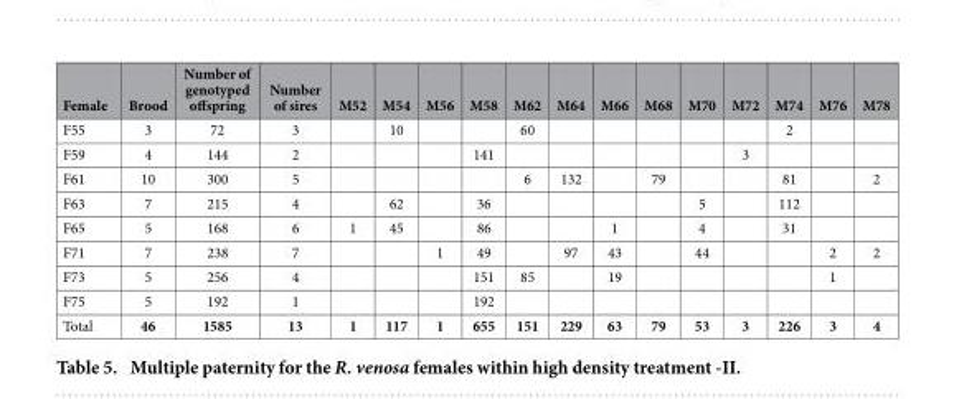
<table><thead><tr><td>Female</td><td>Brood</td><td>Number of genotyped offspring</td><td>Number of sires</td><td>M52</td><td>M54</td><td>M56</td><td>M58</td><td>M62</td><td>M64</td><td>M66</td><td>M68</td><td>M70</td><td>M72</td><td>M74</td><td>M76</td><td>M78</td></tr></thead><tbody><tr><td>F55</td><td>3</td><td>72</td><td>3</td><td></td><td>10</td><td></td><td></td><td>60</td><td></td><td></td><td></td><td></td><td></td><td>2</td><td></td><td></td></tr><tr><td>F59</td><td>4</td><td>144</td><td>2</td><td></td><td></td><td></td><td>141</td><td></td><td></td><td></td><td></td><td></td><td>3</td><td></td><td></td><td></td></tr><tr><td>F61</td><td>10</td><td>300</td><td>5</td><td></td><td></td><td></td><td></td><td>6</td><td>132</td><td></td><td>79</td><td></td><td></td><td>81</td><td></td><td>2</td></tr><tr><td>F63</td><td>7</td><td>215</td><td>4</td><td></td><td>62</td><td></td><td>36</td><td></td><td></td><td></td><td></td><td>5</td><td></td><td>112</td><td></td><td></td></tr><tr><td>F65</td><td>5</td><td>168</td><td>6</td><td>1</td><td>45</td><td></td><td>86</td><td></td><td></td><td>1</td><td></td><td>4</td><td></td><td>31</td><td></td><td></td></tr><tr><td>F71</td><td>7</td><td>238</td><td>7</td><td></td><td></td><td>1</td><td>49</td><td></td><td>97</td><td>43</td><td></td><td>44</td><td></td><td></td><td>2</td><td>2</td></tr><tr><td>F73</td><td>5</td><td>256</td><td>4</td><td></td><td></td><td></td><td>151</td><td>85</td><td></td><td>19</td><td></td><td></td><td></td><td></td><td>1</td><td></td></tr><tr><td>F75</td><td>5</td><td>192</td><td>1</td><td></td><td></td><td></td><td>192</td><td></td><td></td><td></td><td></td><td></td><td></td><td></td><td></td><td></td></tr><tr><td>Total</td><td>46</td><td>1585</td><td>13</td><td>1</td><td>117</td><td>1</td><td>655</td><td>151</td><td>229</td><td>63</td><td>79</td><td>53</td><td>3</td><td>226</td><td>3</td><td>4</td></tr></tbody></table>